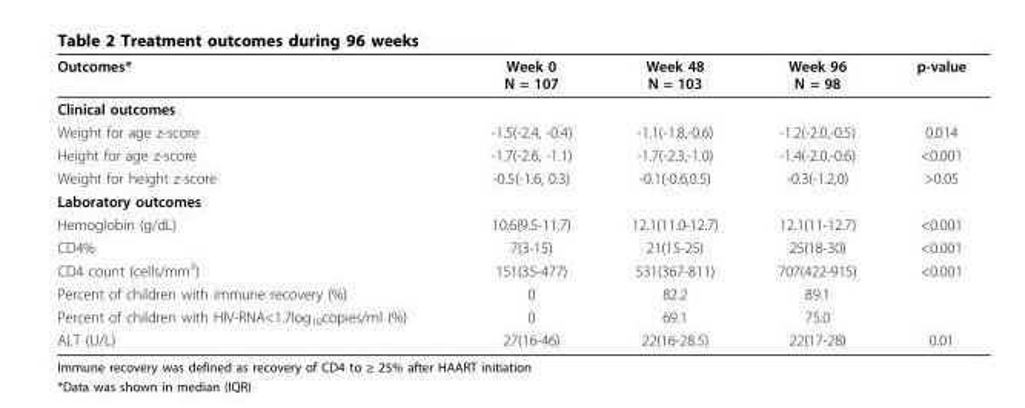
<table><thead><tr><td>Outcomes*</td><td>Week 0 N = 107</td><td>Week 48 N = 103</td><td>Week 96 N = 98</td><td>p-value</td></tr></thead><tbody><tr><td colspan="5">Clinical outcomes</td></tr><tr><td>Weight for age z-score</td><td>-1.5(-2.4, -0.4)</td><td>-1.1(-1.8,-0.6)</td><td>-1.2(-2.0,-0.5)</td><td>0.014</td></tr><tr><td>Height for age z-score</td><td>-1.7(-2.6, -1.1)</td><td>-1.7(-2.3,-1.0)</td><td>-1.4(-2.0,-0.6)</td><td>&lt;0.001</td></tr><tr><td>Weight for height z-score</td><td>-0.5(-1.6, 0.3)</td><td>-0.1(-0.6,0.5)</td><td>-0.3(-1.2,0)</td><td>&gt;0.05</td></tr><tr><td colspan="5">Laboratory outcomes</td></tr><tr><td>Hemoglobin (g/dL)</td><td>10.6(9.5-11.7)</td><td>12.1(11.0-12.7)</td><td>12.1(11-12.7)</td><td>&lt;0.001</td></tr><tr><td>CD4%</td><td>7(3-15)</td><td>21(15-25)</td><td>25(18-30)</td><td>&lt;0.001</td></tr><tr><td>CD4 count (cells/mm<sup>3</sup>)</td><td>151(35-477)</td><td>531(367-811)</td><td>707(422-915)</td><td>&lt;0.001</td></tr><tr><td>Percent of children with immune recovery (%)</td><td>0</td><td>82.2</td><td>89.1</td><td></td></tr><tr><td>Percent of children with HIV-RNA&lt;1.7log<sub>10</sub>copies/ml (%)</td><td>0</td><td>69.1</td><td>75.0</td><td></td></tr><tr><td>ALT (U/L)</td><td>27(16-46)</td><td>22(16-28.5)</td><td>22(17-28)</td><td>0.01</td></tr></tbody></table>